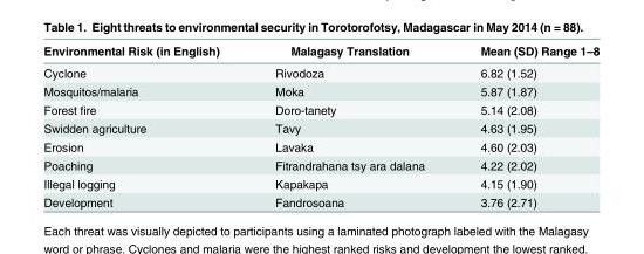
<table><thead><tr><td>Environmental Risk (in English)</td><td>Malagasy Translation</td><td>Mean (SD) Range 1–8</td></tr></thead><tbody><tr><td>Cyclone</td><td>Rivodoza</td><td>6.82 (1.52)</td></tr><tr><td>Mosquitos/malaria</td><td>Moka</td><td>5.87 (1.87)</td></tr><tr><td>Forest fire</td><td>Doro-tanety</td><td>5.14 (2.08)</td></tr><tr><td>Swidden agriculture</td><td>Tavy</td><td>4.63 (1.95)</td></tr><tr><td>Erosion</td><td>Lavaka</td><td>4.60 (2.03)</td></tr><tr><td>Poaching</td><td>Fitrandrahana tsy ara dalana</td><td>4.22 (2.02)</td></tr><tr><td>Illegal logging</td><td>Kapakapa</td><td>4.15 (1.90)</td></tr><tr><td>Development</td><td>Fandrosoana</td><td>3.76 (2.71)</td></tr></tbody></table>